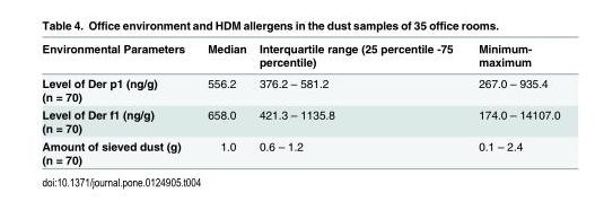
<table><thead><tr><td>Environmental Parameters</td><td>Median</td><td>Interquartile range (25 percentile -75 percentile)</td><td>Minimum- maximum</td></tr></thead><tbody><tr><td>Level of Der p1 (ng/g) (n = 70)</td><td>556.2</td><td>376.2 – 581.2</td><td>267.0 – 935.4</td></tr><tr><td>Level of Der f1 (ng/g) (n = 70)</td><td>658.0</td><td>421.3 – 1135.8</td><td>174.0 – 14107.0</td></tr><tr><td>Amount of sieved dust (g) (n = 70)</td><td>1.0</td><td>0.6 – 1.2</td><td>0.1 – 2.4</td></tr></tbody></table>